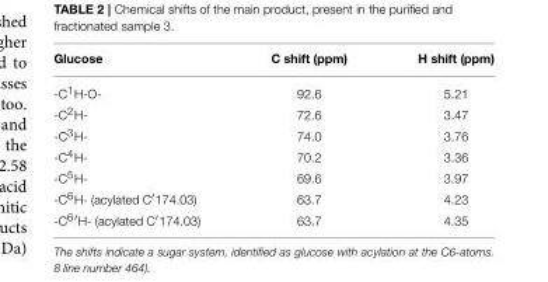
<table><thead><tr><td>Glucose</td><td>C shift (ppm)</td><td>H shift (ppm)</td></tr></thead><tbody><tr><td>-C<sup>1</sup>H-O-</td><td>92.6</td><td>5.21</td></tr><tr><td>-C<sup>2</sup>H-</td><td>72.6</td><td>3.47</td></tr><tr><td>-C<sup>3</sup>H-</td><td>74.0</td><td>3.76</td></tr><tr><td>-C<sup>4</sup>H-</td><td>70.2</td><td>3.36</td></tr><tr><td>-C<sup>5</sup>H-</td><td>69.6</td><td>3.97</td></tr><tr><td>-C<sup>6</sup>H- (acylated C′174.03)</td><td>63.7</td><td>4.23</td></tr><tr><td>-C<sup>6</sup>′H- (acylated C′174.03)</td><td>63.7</td><td>4.35</td></tr></tbody></table>